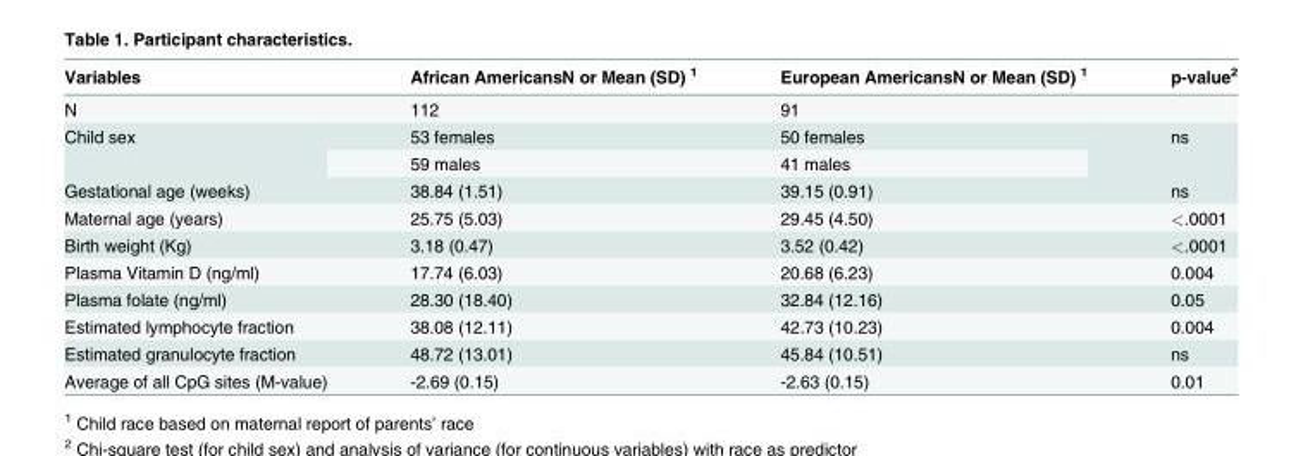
<table><thead><tr><td>Variables</td><td>African AmericansN or Mean (SD) <sup>1</sup></td><td>European AmericansN or Mean (SD) <sup>1</sup></td><td>p-value<sup>2</sup></td></tr></thead><tbody><tr><td>N</td><td>112</td><td colspan="2">91</td></tr><tr><td rowspan="2">Child sex</td><td>53 females</td><td>50 females</td><td rowspan="2">ns</td></tr><tr><td>59 males</td><td>41 males</td></tr><tr><td>Gestational age (weeks)</td><td>38.84 (1.51)</td><td>39.15 (0.91)</td><td>ns</td></tr><tr><td>Maternal age (years)</td><td>25.75 (5.03)</td><td>29.45 (4.50)</td><td>&lt;.0001</td></tr><tr><td>Birth weight (Kg)</td><td>3.18 (0.47)</td><td>3.52 (0.42)</td><td>&lt;.0001</td></tr><tr><td>Plasma Vitamin D (ng/ml)</td><td>17.74 (6.03)</td><td>20.68 (6.23)</td><td>0.004</td></tr><tr><td>Plasma folate (ng/ml)</td><td>28.30 (18.40)</td><td>32.84 (12.16)</td><td>0.05</td></tr><tr><td>Estimated lymphocyte fraction</td><td>38.08 (12.11)</td><td>42.73 (10.23)</td><td>0.004</td></tr><tr><td>Estimated granulocyte fraction</td><td>48.72 (13.01)</td><td>45.84 (10.51)</td><td>ns</td></tr><tr><td>Average of all CpG sites (M-value)</td><td>-2.69 (0.15)</td><td>-2.63 (0.15)</td><td>0.01</td></tr></tbody></table>